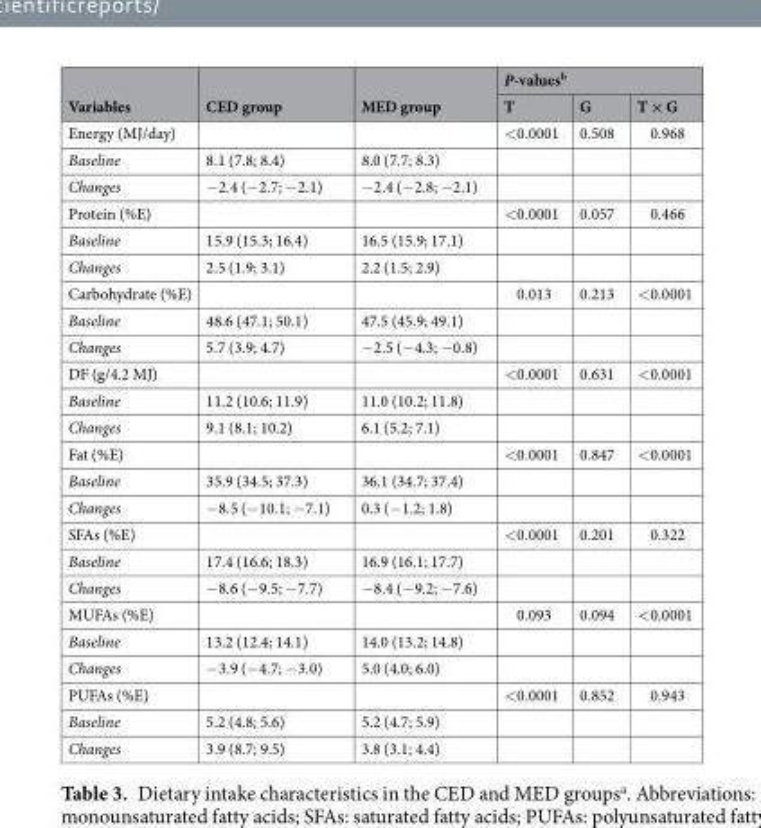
<table><thead><tr><td rowspan="2">Variables</td><td rowspan="2">CED group</td><td rowspan="2">MED group</td><td colspan="3">P-values<sup>b</sup></td></tr><tr><td>T</td><td>G</td><td>T × G</td></tr></thead><tbody><tr><td>Energy (MJ/day)</td><td></td><td></td><td>&lt;0.0001</td><td>0.508</td><td>0.968</td></tr><tr><td>Baseline</td><td>8.1 (7.8; 8.4)</td><td>8.0 (7.7; 8.3)</td><td></td><td></td><td></td></tr><tr><td>Changes</td><td>−2.4 (−2.7; −2.1)</td><td>−2.4 (−2.8; −2.1)</td><td></td><td></td><td></td></tr><tr><td>Protein (%E)</td><td></td><td></td><td>&lt;0.0001</td><td>0.057</td><td>0.466</td></tr><tr><td>Baseline</td><td>15.9 (15.3; 16.4)</td><td>16.5 (15.9; 17.1)</td><td></td><td></td><td></td></tr><tr><td>Changes</td><td>2.5 (1.9; 3.1)</td><td>2.2 (1.5; 2.9)</td><td></td><td></td><td></td></tr><tr><td>Carbohydrate (%E)</td><td></td><td></td><td>0.013</td><td>0.213</td><td>&lt;0.0001</td></tr><tr><td>Baseline</td><td>48.6 (47.1; 50.1)</td><td>47.5 (45.9; 49.1)</td><td></td><td></td><td></td></tr><tr><td>Changes</td><td>5.7 (3.9; 4.7)</td><td>−2.5 (−4.3; −0.8)</td><td></td><td></td><td></td></tr><tr><td>DF (g/4.2 MJ)</td><td></td><td></td><td>&lt;0.0001</td><td>0.631</td><td>&lt;0.0001</td></tr><tr><td>Baseline</td><td>11.2 (10.6; 11.9)</td><td>11.0 (10.2; 11.8)</td><td></td><td></td><td></td></tr><tr><td>Changes</td><td>9.1 (8.1; 10.2)</td><td>6.1 (5.2; 7.1)</td><td></td><td></td><td></td></tr><tr><td>Fat (%E)</td><td></td><td></td><td>&lt;0.0001</td><td>0.847</td><td>&lt;0.0001</td></tr><tr><td>Baseline</td><td>35.9 (34.5; 37.3)</td><td>36.1 (34.7; 37.4)</td><td></td><td></td><td></td></tr><tr><td>Changes</td><td>−8.5 (−10.1; −7.1)</td><td>0.3 (−1.2; 1.8)</td><td></td><td></td><td></td></tr><tr><td>SFAs (%E)</td><td></td><td></td><td>&lt;0.0001</td><td>0.201</td><td>0.322</td></tr><tr><td>Baseline</td><td>17.4 (16.6; 18.3)</td><td>16.9 (16.1; 17.7)</td><td></td><td></td><td></td></tr><tr><td>Changes</td><td>−8.6 (−9.5; −7.7)</td><td>−8.4 (−9.2; −7.6)</td><td></td><td></td><td></td></tr><tr><td>MUFAs (%E)</td><td></td><td></td><td>0.093</td><td>0.094</td><td>&lt;0.0001</td></tr><tr><td>Baseline</td><td>13.2 (12.4; 14.1)</td><td>14.0 (13.2; 14.8)</td><td></td><td></td><td></td></tr><tr><td>Changes</td><td>−3.9 (−4.7; −3.0)</td><td>5.0 (4.0; 6.0)</td><td></td><td></td><td></td></tr><tr><td>PUFAs (%E)</td><td></td><td></td><td>&lt;0.0001</td><td>0.852</td><td>0.943</td></tr><tr><td>Baseline</td><td>5.2 (4.8; 5.6)</td><td>5.2 (4.7; 5.9)</td><td></td><td></td><td></td></tr><tr><td>Changes</td><td>3.9 (8.7; 9.5)</td><td>3.8 (3.1; 4.4)</td><td></td><td></td><td></td></tr></tbody></table>